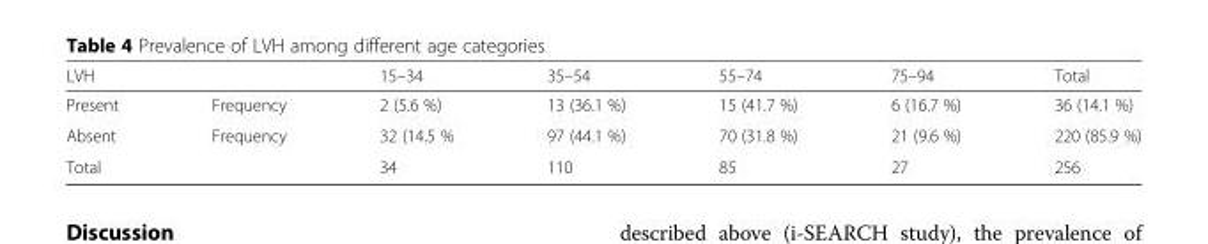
<table><thead><tr><td>LVH</td><td></td><td>15–34</td><td>35–54</td><td>55–74</td><td>75–94</td><td>Total</td></tr></thead><tbody><tr><td>Present</td><td>Frequency</td><td>2 (5.6 %)</td><td>13 (36.1 %)</td><td>15 (41.7 %)</td><td>6 (16.7 %)</td><td>36 (14.1 %)</td></tr><tr><td>Absent</td><td>Frequency</td><td>32 (14.5 %</td><td>97 (44.1 %)</td><td>70 (31.8 %)</td><td>21 (9.6 %)</td><td>220 (85.9 %)</td></tr><tr><td colspan="2">Total</td><td>34</td><td>110</td><td>85</td><td>27</td><td>256</td></tr></tbody></table>